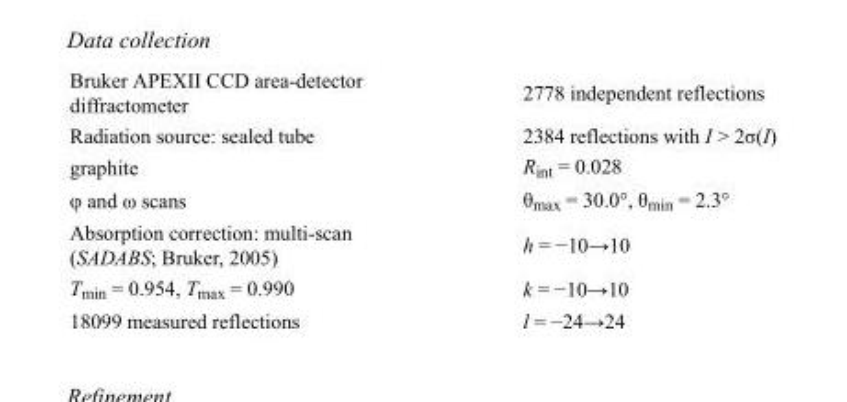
<table><tbody><tr><td>Bruker APEXII CCD area-detector diffractometer</td><td>2778 independent reflections</td></tr><tr><td>Radiation source: sealed tube</td><td>2384 reflections with I &gt; 2σ(I)</td></tr><tr><td>graphite</td><td>R<sub>int</sub> = 0.028</td></tr><tr><td>φ and ω scans</td><td>θ<sub>max</sub> = 30.0°, θ<sub>min</sub> = 2.3°</td></tr><tr><td>Absorption correction: multi-scan (SADABS; Bruker, 2005)</td><td>h = −10→10</td></tr><tr><td>T<sub>min</sub> = 0.954, T<sub>max</sub> = 0.990</td><td>k = −10→10</td></tr><tr><td>18099 measured reflections</td><td>l = −24→24</td></tr></tbody></table>